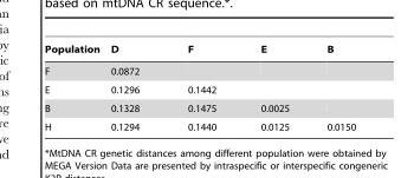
<table><thead><tr><td>Population</td><td>D</td><td>F</td><td>E</td><td>B</td></tr></thead><tbody><tr><td>F</td><td>0.0872</td><td></td><td></td><td></td></tr><tr><td>E</td><td>0.1296</td><td>0.1442</td><td></td><td></td></tr><tr><td>B</td><td>0.1328</td><td>0.1475</td><td>0.0025</td><td></td></tr><tr><td>H</td><td>0.1294</td><td>0.1440</td><td>0.0125</td><td>0.0150</td></tr></tbody></table>